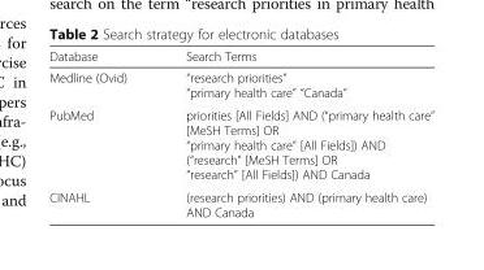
<table><thead><tr><td>Database</td><td>Search Terms</td></tr></thead><tbody><tr><td>Medline (Ovid)</td><td>“research priorities” “primary health care” “Canada”</td></tr><tr><td>PubMed</td><td>priorities [All Fields] AND (“primary health care” [MeSH Terms] OR “primary health care” [All Fields]) AND (“research” [MeSH Terms] OR “research” [All Fields]) AND Canada</td></tr><tr><td>CINAHL</td><td>(research priorities) AND (primary health care) AND Canada</td></tr></tbody></table>